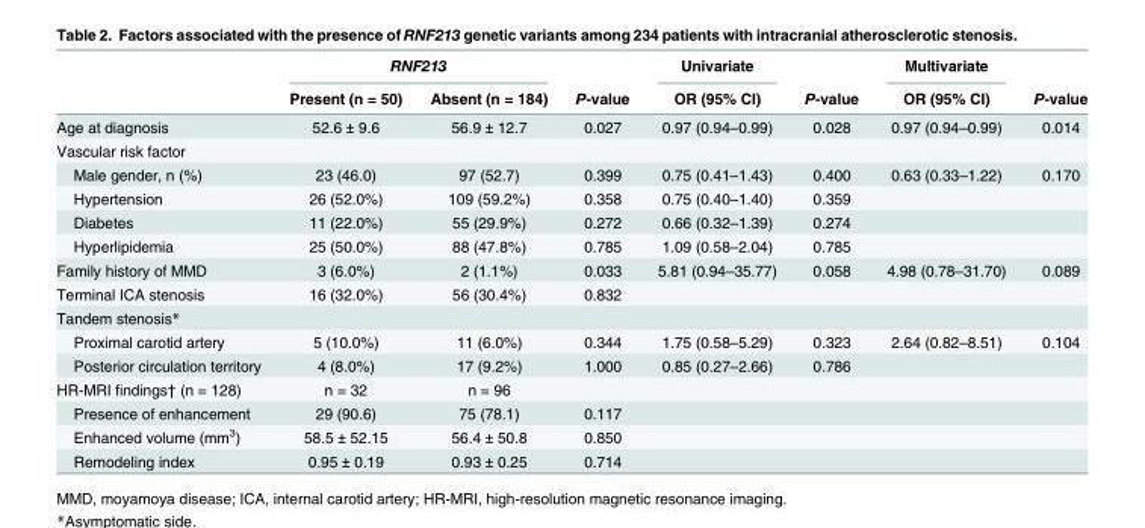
<table><thead><tr><td rowspan="2"></td><td colspan="2">RNF213</td><td rowspan="2">P-value</td><td rowspan="2">Univariate OR (95% CI)</td><td rowspan="2">P-value</td><td rowspan="2">Multivariate OR (95% CI)</td><td rowspan="2">P-value</td></tr><tr><td>Present (n = 50)</td><td>Absent (n = 184)</td></tr></thead><tbody><tr><td>Age at diagnosis</td><td>52.6 ± 9.6</td><td>56.9 ± 12.7</td><td>0.027</td><td>0.97 (0.94–0.99)</td><td>0.028</td><td>0.97 (0.94–0.99)</td><td>0.014</td></tr><tr><td colspan="8">Vascular risk factor</td></tr><tr><td>Male gender, n (%)</td><td>23 (46.0)</td><td>97 (52.7)</td><td>0.399</td><td>0.75 (0.41–1.43)</td><td>0.400</td><td>0.63 (0.33–1.22)</td><td>0.170</td></tr><tr><td>Hypertension</td><td>26 (52.0%)</td><td>109 (59.2%)</td><td>0.358</td><td>0.75 (0.40–1.40)</td><td>0.359</td><td></td><td></td></tr><tr><td>Diabetes</td><td>11 (22.0%)</td><td>55 (29.9%)</td><td>0.272</td><td>0.66 (0.32–1.39)</td><td>0.274</td><td></td><td></td></tr><tr><td>Hyperlipidemia</td><td>25 (50.0%)</td><td>88 (47.8%)</td><td>0.785</td><td>1.09 (0.58–2.04)</td><td>0.785</td><td></td><td></td></tr><tr><td>Family history of MMD</td><td>3 (6.0%)</td><td>2 (1.1%)</td><td>0.033</td><td>5.81 (0.94–35.77)</td><td>0.058</td><td>4.98 (0.78–31.70)</td><td>0.089</td></tr><tr><td>Terminal ICA stenosis</td><td>16 (32.0%)</td><td>56 (30.4%)</td><td>0.832</td><td></td><td></td><td></td><td></td></tr><tr><td colspan="8">Tandem stenosis*</td></tr><tr><td>Proximal carotid artery</td><td>5 (10.0%)</td><td>11 (6.0%)</td><td>0.344</td><td>1.75 (0.58–5.29)</td><td>0.323</td><td>2.64 (0.82–8.51)</td><td>0.104</td></tr><tr><td>Posterior circulation territory</td><td>4 (8.0%)</td><td>17 (9.2%)</td><td>1.000</td><td>0.85 (0.27–2.66)</td><td>0.786</td><td></td><td></td></tr><tr><td>HR-MRI findings† (n = 128)</td><td>n = 32</td><td>n = 96</td><td></td><td></td><td></td><td></td><td></td></tr><tr><td>Presence of enhancement</td><td>29 (90.6)</td><td>75 (78.1)</td><td>0.117</td><td></td><td></td><td></td><td></td></tr><tr><td>Enhanced volume (mm<sup>3</sup>)</td><td>58.5 ± 52.15</td><td>56.4 ± 50.8</td><td>0.850</td><td></td><td></td><td></td><td></td></tr><tr><td>Remodeling index</td><td>0.95 ± 0.19</td><td>0.93 ± 0.25</td><td>0.714</td><td></td><td></td><td></td><td></td></tr></tbody></table>